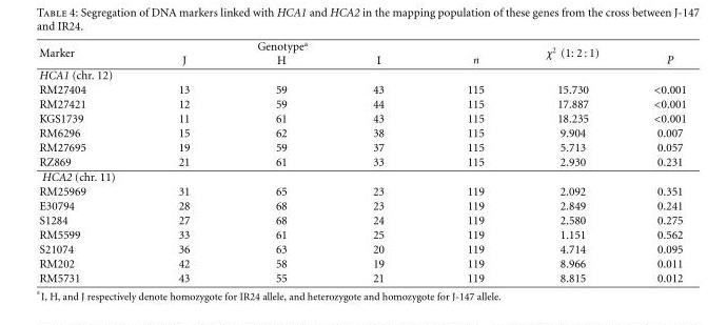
<table><thead><tr><td rowspan="2">Marker</td><td colspan="3">Genotype<sup>a</sup></td><td rowspan="2">n</td><td rowspan="2">χ<sup>2</sup> (1: 2 : 1)</td><td rowspan="2">P</td></tr><tr><td>J</td><td>H</td><td>I</td></tr></thead><tbody><tr><td colspan="7">HCA1 (chr. 12)</td></tr><tr><td>RM27404</td><td>13</td><td>59</td><td>43</td><td>115</td><td>15.730</td><td>&lt;0.001</td></tr><tr><td>RM27421</td><td>12</td><td>59</td><td>44</td><td>115</td><td>17.887</td><td>&lt;0.001</td></tr><tr><td>KGS1739</td><td>11</td><td>61</td><td>43</td><td>115</td><td>18.235</td><td>&lt;0.001</td></tr><tr><td>RM6296</td><td>15</td><td>62</td><td>38</td><td>115</td><td>9.904</td><td>0.007</td></tr><tr><td>RM27695</td><td>19</td><td>59</td><td>37</td><td>115</td><td>5.713</td><td>0.057</td></tr><tr><td>RZ869</td><td>21</td><td>61</td><td>33</td><td>115</td><td>2.930</td><td>0.231</td></tr><tr><td colspan="7">HCA2 (chr. 11)</td></tr><tr><td>RM25969</td><td>31</td><td>65</td><td>23</td><td>119</td><td>2.092</td><td>0.351</td></tr><tr><td>E30794</td><td>28</td><td>68</td><td>23</td><td>119</td><td>2.849</td><td>0.241</td></tr><tr><td>S1284</td><td>27</td><td>68</td><td>24</td><td>119</td><td>2.580</td><td>0.275</td></tr><tr><td>RM5599</td><td>33</td><td>61</td><td>25</td><td>119</td><td>1.151</td><td>0.562</td></tr><tr><td>S21074</td><td>36</td><td>63</td><td>20</td><td>119</td><td>4.714</td><td>0.095</td></tr><tr><td>RM202</td><td>42</td><td>58</td><td>19</td><td>119</td><td>8.966</td><td>0.011</td></tr><tr><td>RM5731</td><td>43</td><td>55</td><td>21</td><td>119</td><td>8.815</td><td>0.012</td></tr></tbody></table>